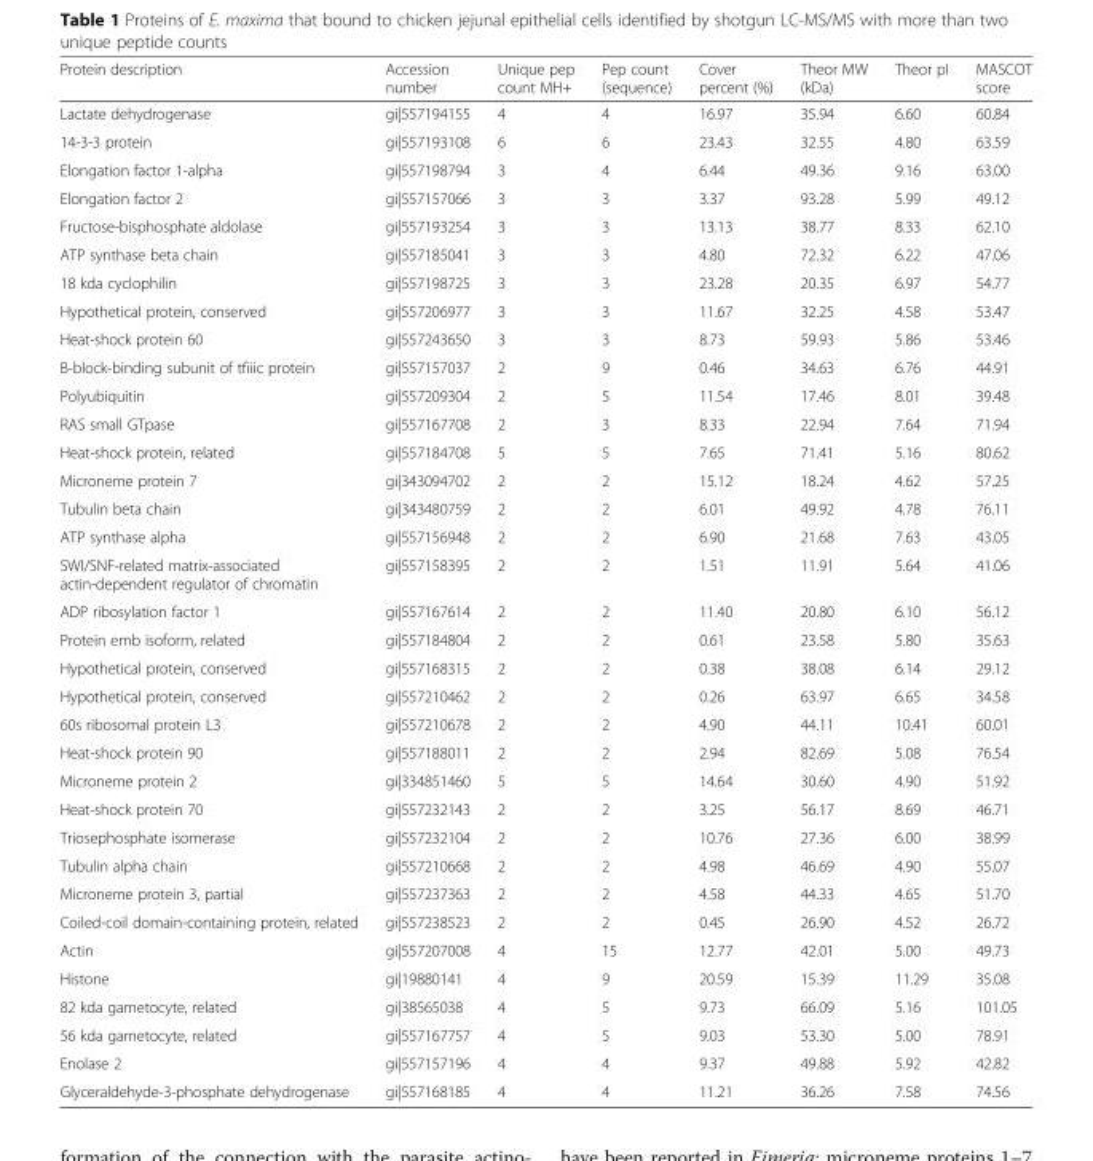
<table><thead><tr><td>Protein description</td><td>Accession number</td><td>Unique pep count MH+</td><td>Pep count (sequence)</td><td>Cover percent (%)</td><td>Theor MW (kDa)</td><td>Theor pI</td><td>MASCOT score</td></tr></thead><tbody><tr><td>Lactate dehydrogenase</td><td>gi|557194155</td><td>4</td><td>4</td><td>16.97</td><td>35.94</td><td>6.60</td><td>60.84</td></tr><tr><td>14-3-3 protein</td><td>gi|557193108</td><td>6</td><td>6</td><td>23.43</td><td>32.55</td><td>4.80</td><td>63.59</td></tr><tr><td>Elongation factor 1-alpha</td><td>gi|557198794</td><td>3</td><td>4</td><td>6.44</td><td>49.36</td><td>9.16</td><td>63.00</td></tr><tr><td>Elongation factor 2</td><td>gi|557157066</td><td>3</td><td>3</td><td>3.37</td><td>93.28</td><td>5.99</td><td>49.12</td></tr><tr><td>Fructose-bisphosphate aldolase</td><td>gi|557193254</td><td>3</td><td>3</td><td>13.13</td><td>38.77</td><td>8.33</td><td>62.10</td></tr><tr><td>ATP synthase beta chain</td><td>gi|557185041</td><td>3</td><td>3</td><td>4.80</td><td>72.32</td><td>6.22</td><td>47.06</td></tr><tr><td>18 kda cyclophilin</td><td>gi|557198725</td><td>3</td><td>3</td><td>23.28</td><td>20.35</td><td>6.97</td><td>54.77</td></tr><tr><td>Hypothetical protein, conserved</td><td>gi|557206977</td><td>3</td><td>3</td><td>11.67</td><td>32.25</td><td>4.58</td><td>53.47</td></tr><tr><td>Heat-shock protein 60</td><td>gi|557243650</td><td>3</td><td>3</td><td>8.73</td><td>59.93</td><td>5.86</td><td>53.46</td></tr><tr><td>B-block-binding subunit of tfiiic protein</td><td>gi|557157037</td><td>2</td><td>9</td><td>0.46</td><td>34.63</td><td>6.76</td><td>44.91</td></tr><tr><td>Polyubiquitin</td><td>gi|557209304</td><td>2</td><td>5</td><td>11.54</td><td>17.46</td><td>8.01</td><td>39.48</td></tr><tr><td>RAS small GTpase</td><td>gi|557167708</td><td>2</td><td>3</td><td>8.33</td><td>22.94</td><td>7.64</td><td>71.94</td></tr><tr><td>Heat-shock protein, related</td><td>gi|557184708</td><td>5</td><td>5</td><td>7.65</td><td>71.41</td><td>5.16</td><td>80.62</td></tr><tr><td>Microneme protein 7</td><td>gi|343094702</td><td>2</td><td>2</td><td>15.12</td><td>18.24</td><td>4.62</td><td>57.25</td></tr><tr><td>Tubulin beta chain</td><td>gi|343480759</td><td>2</td><td>2</td><td>6.01</td><td>49.92</td><td>4.78</td><td>76.11</td></tr><tr><td>ATP synthase alpha</td><td>gi|557156948</td><td>2</td><td>2</td><td>6.90</td><td>21.68</td><td>7.63</td><td>43.05</td></tr><tr><td>SWI/SNF-related matrix-associated actin-dependent regulator of chromatin</td><td>gi|557158395</td><td>2</td><td>2</td><td>1.51</td><td>11.91</td><td>5.64</td><td>41.06</td></tr><tr><td>ADP ribosylation factor 1</td><td>gi|557167614</td><td>2</td><td>2</td><td>11.40</td><td>20.80</td><td>6.10</td><td>56.12</td></tr><tr><td>Protein emb isoform, related</td><td>gi|557184804</td><td>2</td><td>2</td><td>0.61</td><td>23.58</td><td>5.80</td><td>35.63</td></tr><tr><td>Hypothetical protein, conserved</td><td>gi|557168315</td><td>2</td><td>2</td><td>0.38</td><td>38.08</td><td>6.14</td><td>29.12</td></tr><tr><td>Hypothetical protein, conserved</td><td>gi|557210462</td><td>2</td><td>2</td><td>0.26</td><td>63.97</td><td>6.65</td><td>34.58</td></tr><tr><td>60s ribosomal protein L3</td><td>gi|557210678</td><td>2</td><td>2</td><td>4.90</td><td>44.11</td><td>10.41</td><td>60.01</td></tr><tr><td>Heat-shock protein 90</td><td>gi|557188011</td><td>2</td><td>2</td><td>2.94</td><td>82.69</td><td>5.08</td><td>76.54</td></tr><tr><td>Microneme protein 2</td><td>gi|334851460</td><td>5</td><td>5</td><td>14.64</td><td>30.60</td><td>4.90</td><td>51.92</td></tr><tr><td>Heat-shock protein 70</td><td>gi|557232143</td><td>2</td><td>2</td><td>3.25</td><td>56.17</td><td>8.69</td><td>46.71</td></tr><tr><td>Triosephosphate isomerase</td><td>gi|557232104</td><td>2</td><td>2</td><td>10.76</td><td>27.36</td><td>6.00</td><td>38.99</td></tr><tr><td>Tubulin alpha chain</td><td>gi|557210668</td><td>2</td><td>2</td><td>4.98</td><td>46.69</td><td>4.90</td><td>55.07</td></tr><tr><td>Microneme protein 3, partial</td><td>gi|557237363</td><td>2</td><td>2</td><td>4.58</td><td>44.33</td><td>4.65</td><td>51.70</td></tr><tr><td>Coiled-coil domain-containing protein, related</td><td>gi|557238523</td><td>2</td><td>2</td><td>0.45</td><td>26.90</td><td>4.52</td><td>26.72</td></tr><tr><td>Actin</td><td>gi|557207008</td><td>4</td><td>15</td><td>12.77</td><td>42.01</td><td>5.00</td><td>49.73</td></tr><tr><td>Histone</td><td>gi|19880141</td><td>4</td><td>9</td><td>20.59</td><td>15.39</td><td>11.29</td><td>35.08</td></tr><tr><td>82 kda gametocyte, related</td><td>gi|38565038</td><td>4</td><td>5</td><td>9.73</td><td>66.09</td><td>5.16</td><td>101.05</td></tr><tr><td>56 kda gametocyte, related</td><td>gi|557167757</td><td>4</td><td>5</td><td>9.03</td><td>53.30</td><td>5.00</td><td>78.91</td></tr><tr><td>Enolase 2</td><td>gi|557157196</td><td>4</td><td>4</td><td>9.37</td><td>49.88</td><td>5.92</td><td>42.82</td></tr><tr><td>Glyceraldehyde-3-phosphate dehydrogenase</td><td>gi|557168185</td><td>4</td><td>4</td><td>11.21</td><td>36.26</td><td>7.58</td><td>74.56</td></tr></tbody></table>